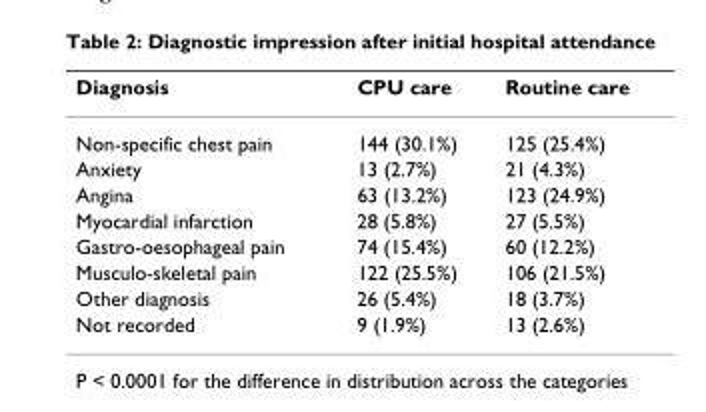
<table><thead><tr><td>Diagnosis</td><td>CPU care</td><td>Routine care</td></tr></thead><tbody><tr><td>Non-specific chest pain</td><td>144 (30.1%)</td><td>125 (25.4%)</td></tr><tr><td>Anxiety</td><td>13 (2.7%)</td><td>21 (4.3%)</td></tr><tr><td>Angina</td><td>63 (13.2%)</td><td>123 (24.9%)</td></tr><tr><td>Myocardial infarction</td><td>28 (5.8%)</td><td>27 (5.5%)</td></tr><tr><td>Gastro-oesophageal pain</td><td>74 (15.4%)</td><td>60 (12.2%)</td></tr><tr><td>Musculo-skeletal pain</td><td>122 (25.5%)</td><td>106 (21.5%)</td></tr><tr><td>Other diagnosis</td><td>26 (5.4%)</td><td>18 (3.7%)</td></tr><tr><td>Not recorded</td><td>9 (1.9%)</td><td>13 (2.6%)</td></tr></tbody></table>